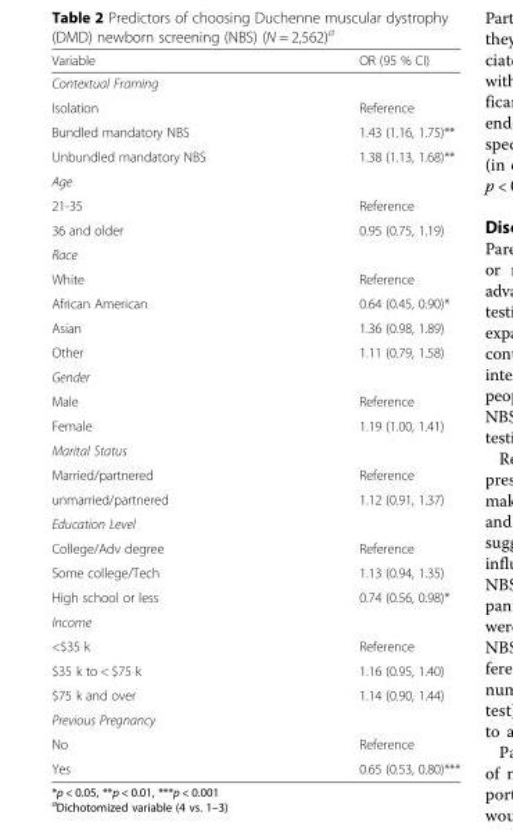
<table><thead><tr><td>Variable</td><td>OR (95 % CI)</td></tr></thead><tbody><tr><td colspan="2">Contextual Framing</td></tr><tr><td>Isolation</td><td>Reference</td></tr><tr><td>Bundled mandatory NBS</td><td>1.43 (1.16, 1.75)**</td></tr><tr><td>Unbundled mandatory NBS</td><td>1.38 (1.13, 1.68)**</td></tr><tr><td colspan="2">Age</td></tr><tr><td>21-35</td><td>Reference</td></tr><tr><td>36 and older</td><td>0.95 (0.75, 1.19)</td></tr><tr><td colspan="2">Race</td></tr><tr><td>White</td><td>Reference</td></tr><tr><td>African American</td><td>0.64 (0.45, 0.90)*</td></tr><tr><td>Asian</td><td>1.36 (0.98, 1.89)</td></tr><tr><td>Other</td><td>1.11 (0.79, 1.58)</td></tr><tr><td colspan="2">Gender</td></tr><tr><td>Male</td><td>Reference</td></tr><tr><td>Female</td><td>1.19 (1.00, 1.41)</td></tr><tr><td colspan="2">Marital Status</td></tr><tr><td>Married/partnered</td><td>Reference</td></tr><tr><td>unmarried/partnered</td><td>1.12 (0.91, 1.37)</td></tr><tr><td colspan="2">Education Level</td></tr><tr><td>College/Adv degree</td><td>Reference</td></tr><tr><td>Some college/Tech</td><td>1.13 (0.94, 1.35)</td></tr><tr><td>High school or less</td><td>0.74 (0.56, 0.98)*</td></tr><tr><td colspan="2">Income</td></tr><tr><td>&lt;$35 k</td><td>Reference</td></tr><tr><td>$35 k to &lt; $75 k</td><td>1.16 (0.95, 1.40)</td></tr><tr><td>$75 k and over</td><td>1.14 (0.90, 1.44)</td></tr><tr><td colspan="2">Previous Pregnancy</td></tr><tr><td>No</td><td>Reference</td></tr><tr><td>Yes</td><td>0.65 (0.53, 0.80)***</td></tr></tbody></table>